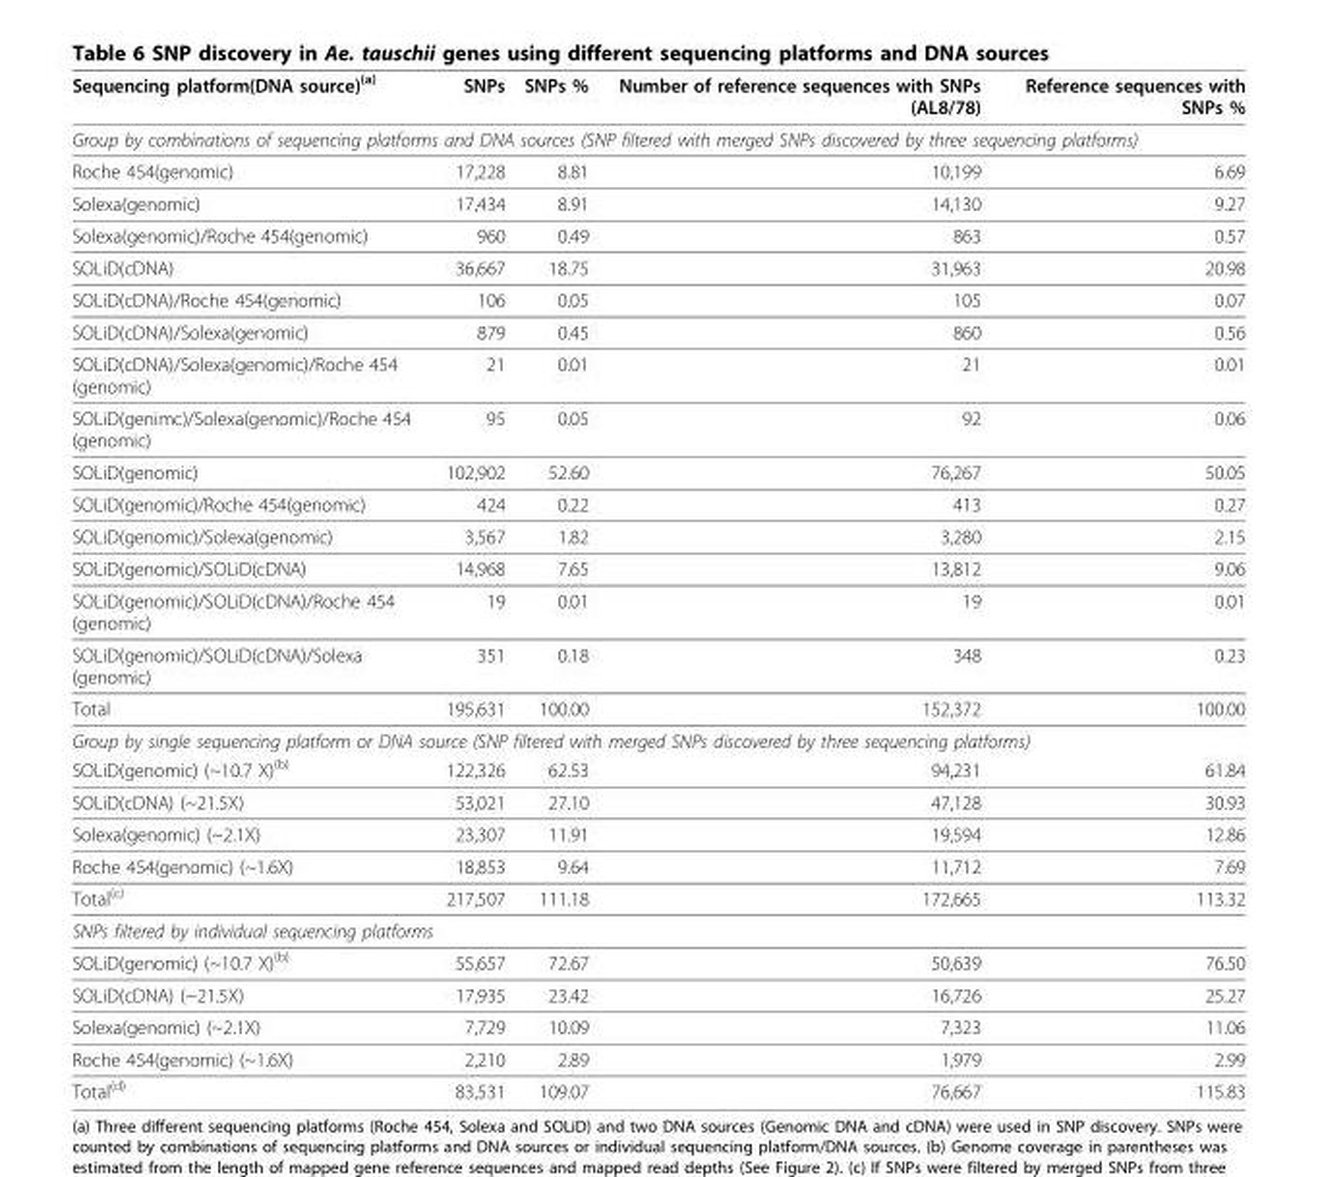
<table><thead><tr><td>Sequencing platform(DNA source)<sup>(a)</sup></td><td>SNPs</td><td>SNPs %</td><td>Number of reference sequences with SNPs (AL8/78)</td><td>Reference sequences with SNPs %</td></tr></thead><tbody><tr><td colspan="5">Group by combinations of sequencing platforms and DNA sources (SNP filtered with merged SNPs discovered by three sequencing platforms)</td></tr><tr><td>Roche 454(genomic)</td><td>17,228</td><td>8.81</td><td>10,199</td><td>6.69</td></tr><tr><td>Solexa(genomic)</td><td>17,434</td><td>8.91</td><td>14,130</td><td>9.27</td></tr><tr><td>Solexa(genomic)/Roche 454(genomic)</td><td>960</td><td>0.49</td><td>863</td><td>0.57</td></tr><tr><td>SOLiD(cDNA)</td><td>36,667</td><td>18.75</td><td>31,963</td><td>20.98</td></tr><tr><td>SOLiD(cDNA)/Roche 454(genomic)</td><td>106</td><td>0.05</td><td>105</td><td>0.07</td></tr><tr><td>SOLiD(cDNA)/Solexa(genomic)</td><td>879</td><td>0.45</td><td>860</td><td>0.56</td></tr><tr><td>SOLiD(cDNA)/Solexa(genomic)/Roche 454 (genomic)</td><td>21</td><td>0.01</td><td>21</td><td>0.01</td></tr><tr><td>SOLiD(genimc)/Solexa(genomic)/Roche 454 (genomic)</td><td>95</td><td>0.05</td><td>92</td><td>0.06</td></tr><tr><td>SOLiD(genomic)</td><td>102,902</td><td>52.60</td><td>76,267</td><td>50.05</td></tr><tr><td>SOLiD(genomic)/Roche 454(genomic)</td><td>424</td><td>0.22</td><td>413</td><td>0.27</td></tr><tr><td>SOLiD(genomic)/Solexa(genomic)</td><td>3,567</td><td>1.82</td><td>3,280</td><td>2.15</td></tr><tr><td>SOLiD(genomic)/SOLiD(cDNA)</td><td>14,968</td><td>7.65</td><td>13,812</td><td>9.06</td></tr><tr><td>SOLiD(genomic)/SOLiD(cDNA)/Roche 454 (genomic)</td><td>19</td><td>0.01</td><td>19</td><td>0.01</td></tr><tr><td>SOLiD(genomic)/SOLiD(cDNA)/Solexa (genomic)</td><td>351</td><td>0.18</td><td>348</td><td>0.23</td></tr><tr><td>Total</td><td>195,631</td><td>100.00</td><td>152,372</td><td>100.00</td></tr><tr><td colspan="5">Group by single sequencing platform or DNA source (SNP filtered with merged SNPs discovered by three sequencing platforms)</td></tr><tr><td>SOLiD(genomic) (~10.7 X)<sup>(b)</sup></td><td>122,326</td><td>62.53</td><td>94,231</td><td>61.84</td></tr><tr><td>SOLiD(cDNA) (~21.5X)</td><td>53,021</td><td>27.10</td><td>47,128</td><td>30.93</td></tr><tr><td>Solexa(genomic) (~2.1X)</td><td>23,307</td><td>11.91</td><td>19,594</td><td>12.86</td></tr><tr><td>Roche 454(genomic) (~1.6X)</td><td>18,853</td><td>9.64</td><td>11,712</td><td>7.69</td></tr><tr><td>Total<sup>(c)</sup></td><td>217,507</td><td>111.18</td><td>172,665</td><td>113.32</td></tr><tr><td colspan="5">SNPs filtered by individual sequencing platforms</td></tr><tr><td>SOLiD(genomic) (~10.7 X)<sup>(b)</sup></td><td>55,657</td><td>72.67</td><td>50,639</td><td>76.50</td></tr><tr><td>SOLiD(cDNA) (~21.5X)</td><td>17,935</td><td>23.42</td><td>16,726</td><td>25.27</td></tr><tr><td>Solexa(genomic) (~2.1X)</td><td>7,729</td><td>10.09</td><td>7,323</td><td>11.06</td></tr><tr><td>Roche 454(genomic) (~1.6X)</td><td>2,210</td><td>2.89</td><td>1,979</td><td>2.99</td></tr><tr><td>Total<sup>(d)</sup></td><td>83,531</td><td>109.07</td><td>76,667</td><td>115.83</td></tr></tbody></table>